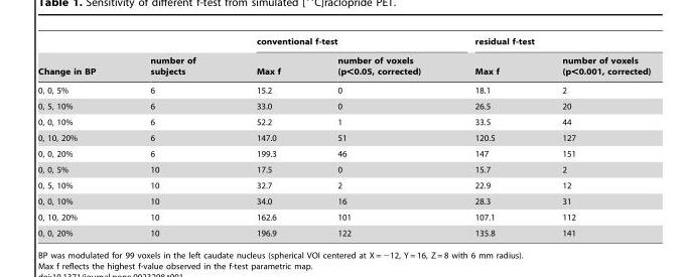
<table><thead><tr><td rowspan="2">Change in BP</td><td rowspan="2">number of subjects</td><td colspan="2">conventional f-test</td><td colspan="2">residual f-test</td></tr><tr><td>Max f</td><td>number of voxels (p&lt;0.05, corrected)</td><td>Max f</td><td>number of voxels (p&lt;0.001, corrected)</td></tr></thead><tbody><tr><td>0, 0, 5%</td><td>6</td><td>15.2</td><td>0</td><td>18.1</td><td>2</td></tr><tr><td>0, 5, 10%</td><td>6</td><td>33.0</td><td>0</td><td>26.5</td><td>20</td></tr><tr><td>0, 0, 10%</td><td>6</td><td>52.2</td><td>1</td><td>33.5</td><td>44</td></tr><tr><td>0, 10, 20%</td><td>6</td><td>147.0</td><td>51</td><td>120.5</td><td>127</td></tr><tr><td>0, 0, 20%</td><td>6</td><td>199.3</td><td>46</td><td>147</td><td>151</td></tr><tr><td>0, 0, 5%</td><td>10</td><td>17.5</td><td>0</td><td>15.7</td><td>2</td></tr><tr><td>0, 5, 10%</td><td>10</td><td>32.7</td><td>2</td><td>22.9</td><td>12</td></tr><tr><td>0, 0, 10%</td><td>10</td><td>34.0</td><td>16</td><td>28.3</td><td>31</td></tr><tr><td>0, 10, 20%</td><td>10</td><td>162.6</td><td>101</td><td>107.1</td><td>112</td></tr><tr><td>0, 0, 20%</td><td>10</td><td>196.9</td><td>122</td><td>135.8</td><td>141</td></tr></tbody></table>